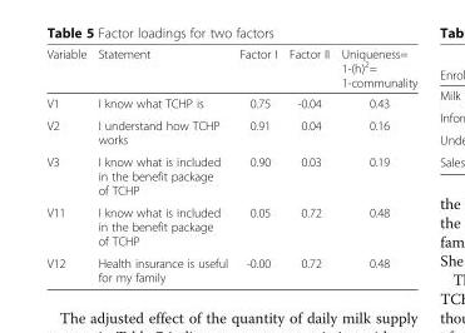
<table><thead><tr><td>Variable</td><td>Statement</td><td>Factor I</td><td>Factor II</td><td>Uniqueness= 1-(h)<sup>2</sup>= 1-communality</td></tr></thead><tbody><tr><td>V1</td><td>I know what TCHP is</td><td>0.75</td><td>-0.04</td><td>0.43</td></tr><tr><td>V2</td><td>I understand how TCHP works</td><td>0.91</td><td>0.04</td><td>0.16</td></tr><tr><td>V3</td><td>I know what is included in the benefit package of TCHP</td><td>0.90</td><td>0.03</td><td>0.19</td></tr><tr><td>V11</td><td>I know what is included in the benefit package of TCHP</td><td>0.05</td><td>0.72</td><td>0.48</td></tr><tr><td>V12</td><td>Health insurance is useful for my family</td><td>-0.00</td><td>0.72</td><td>0.48</td></tr></tbody></table>